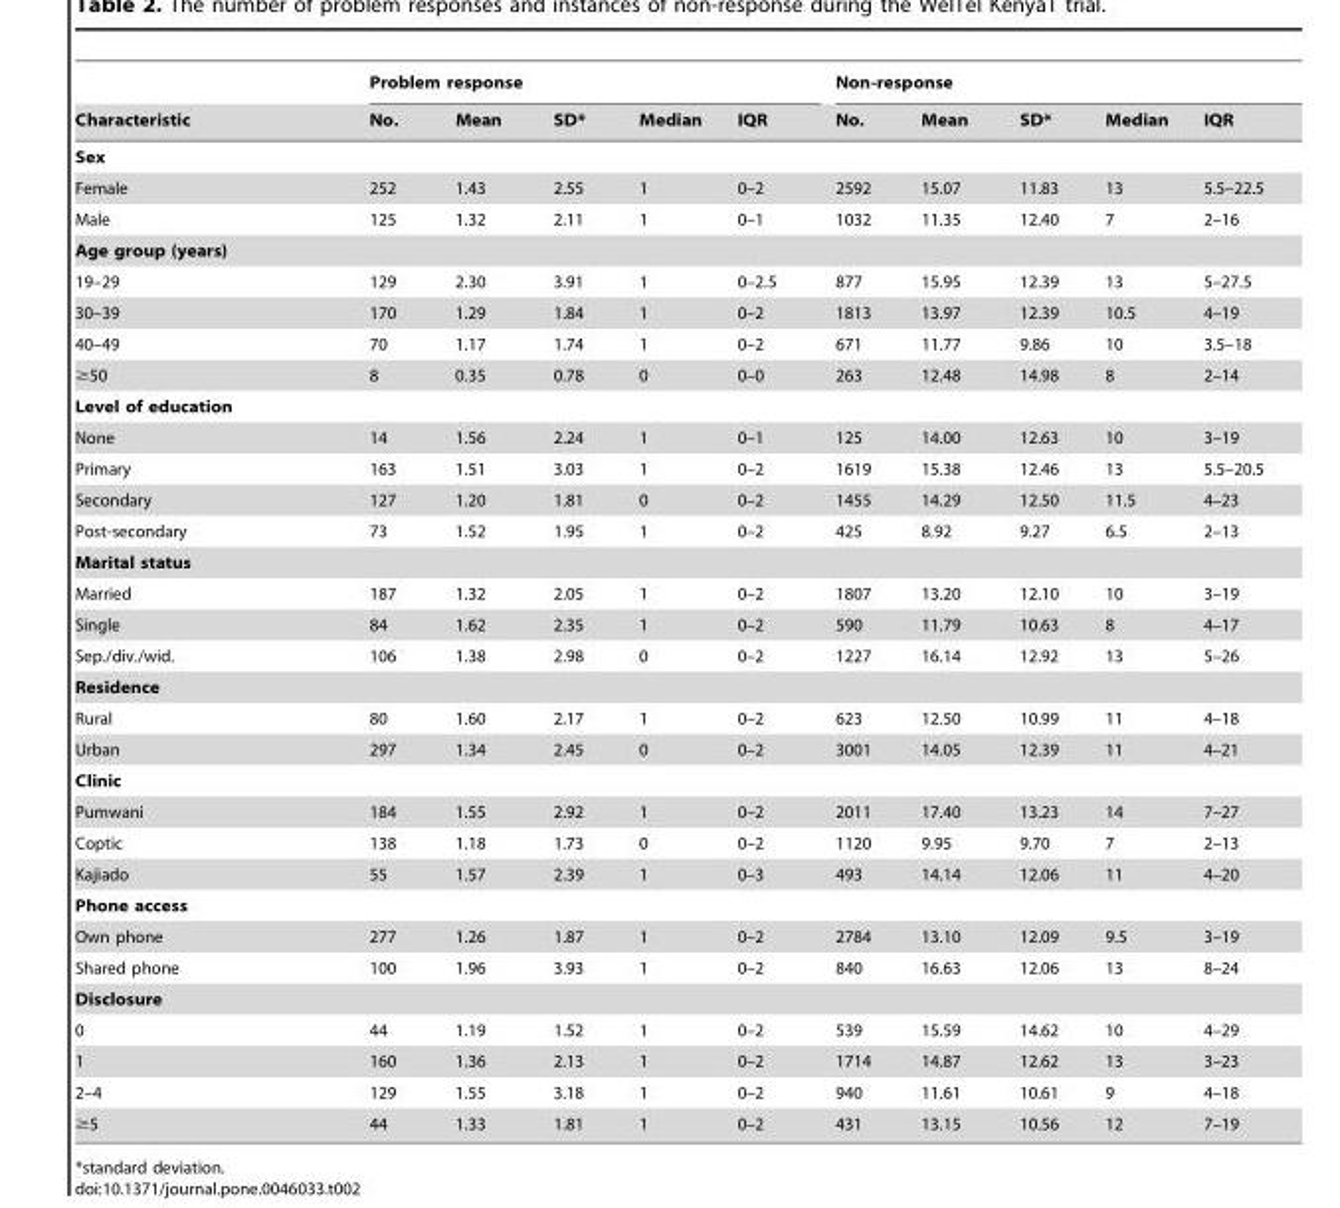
<table><thead><tr><td rowspan="2">Characteristic</td><td colspan="5">Problem response</td><td colspan="5">Non-response</td></tr><tr><td>No.</td><td>Mean</td><td>SD*</td><td>Median</td><td>IQR</td><td>No.</td><td>Mean</td><td>SD*</td><td>Median</td><td>IQR</td></tr></thead><tbody><tr><td colspan="11">Sex</td></tr><tr><td>Female</td><td>252</td><td>1.43</td><td>2.55</td><td>1</td><td>0–2</td><td>2592</td><td>15.07</td><td>11.83</td><td>13</td><td>5.5–22.5</td></tr><tr><td>Male</td><td>125</td><td>1.32</td><td>2.11</td><td>1</td><td>0–1</td><td>1032</td><td>11.35</td><td>12.40</td><td>7</td><td>2–16</td></tr><tr><td colspan="11">Age group (years)</td></tr><tr><td>19–29</td><td>129</td><td>2.30</td><td>3.91</td><td>1</td><td>0–2.5</td><td>877</td><td>15.95</td><td>12.39</td><td>13</td><td>5–27.5</td></tr><tr><td>30–39</td><td>170</td><td>1.29</td><td>1.84</td><td>1</td><td>0–2</td><td>1813</td><td>13.97</td><td>12.39</td><td>10.5</td><td>4–19</td></tr><tr><td>40–49</td><td>70</td><td>1.17</td><td>1.74</td><td>1</td><td>0–2</td><td>671</td><td>11.77</td><td>9.86</td><td>10</td><td>3.5–18</td></tr><tr><td>≥50</td><td>8</td><td>0.35</td><td>0.78</td><td>0</td><td>0–0</td><td>263</td><td>12.48</td><td>14.98</td><td>8</td><td>2–14</td></tr><tr><td colspan="11">Level of education</td></tr><tr><td>None</td><td>14</td><td>1.56</td><td>2.24</td><td>1</td><td>0–1</td><td>125</td><td>14.00</td><td>12.63</td><td>10</td><td>3–19</td></tr><tr><td>Primary</td><td>163</td><td>1.51</td><td>3.03</td><td>1</td><td>0–2</td><td>1619</td><td>15.38</td><td>12.46</td><td>13</td><td>5.5–20.5</td></tr><tr><td>Secondary</td><td>127</td><td>1.20</td><td>1.81</td><td>0</td><td>0–2</td><td>1455</td><td>14.29</td><td>12.50</td><td>11.5</td><td>4–23</td></tr><tr><td>Post-secondary</td><td>73</td><td>1.52</td><td>1.95</td><td>1</td><td>0–2</td><td>425</td><td>8.92</td><td>9.27</td><td>6.5</td><td>2–13</td></tr><tr><td colspan="11">Marital status</td></tr><tr><td>Married</td><td>187</td><td>1.32</td><td>2.05</td><td>1</td><td>0–2</td><td>1807</td><td>13.20</td><td>12.10</td><td>10</td><td>3–19</td></tr><tr><td>Single</td><td>84</td><td>1.62</td><td>2.35</td><td>1</td><td>0–2</td><td>590</td><td>11.79</td><td>10.63</td><td>8</td><td>4–17</td></tr><tr><td>Sep./div./wid.</td><td>106</td><td>1.38</td><td>2.98</td><td>0</td><td>0–2</td><td>1227</td><td>16.14</td><td>12.92</td><td>13</td><td>5–26</td></tr><tr><td colspan="11">Residence</td></tr><tr><td>Rural</td><td>80</td><td>1.60</td><td>2.17</td><td>1</td><td>0–2</td><td>623</td><td>12.50</td><td>10.99</td><td>11</td><td>4–18</td></tr><tr><td>Urban</td><td>297</td><td>1.34</td><td>2.45</td><td>0</td><td>0–2</td><td>3001</td><td>14.05</td><td>12.39</td><td>11</td><td>4–21</td></tr><tr><td colspan="11">Clinic</td></tr><tr><td>Pumwani</td><td>184</td><td>1.55</td><td>2.92</td><td>1</td><td>0–2</td><td>2011</td><td>17.40</td><td>13.23</td><td>14</td><td>7–27</td></tr><tr><td>Coptic</td><td>138</td><td>1.18</td><td>1.73</td><td>0</td><td>0–2</td><td>1120</td><td>9.95</td><td>9.70</td><td>7</td><td>2–13</td></tr><tr><td>Kajiado</td><td>55</td><td>1.57</td><td>2.39</td><td>1</td><td>0–3</td><td>493</td><td>14.14</td><td>12.06</td><td>11</td><td>4–20</td></tr><tr><td colspan="11">Phone access</td></tr><tr><td>Own phone</td><td>277</td><td>1.26</td><td>1.87</td><td>1</td><td>0–2</td><td>2784</td><td>13.10</td><td>12.09</td><td>9.5</td><td>3–19</td></tr><tr><td>Shared phone</td><td>100</td><td>1.96</td><td>3.93</td><td>1</td><td>0–2</td><td>840</td><td>16.63</td><td>12.06</td><td>13</td><td>8–24</td></tr><tr><td colspan="11">Disclosure</td></tr><tr><td>0</td><td>44</td><td>1.19</td><td>1.52</td><td>1</td><td>0–2</td><td>539</td><td>15.59</td><td>14.62</td><td>10</td><td>4–29</td></tr><tr><td>1</td><td>160</td><td>1.36</td><td>2.13</td><td>1</td><td>0–2</td><td>1714</td><td>14.87</td><td>12.62</td><td>13</td><td>3–23</td></tr><tr><td>2–4</td><td>129</td><td>1.55</td><td>3.18</td><td>1</td><td>0–2</td><td>940</td><td>11.61</td><td>10.61</td><td>9</td><td>4–18</td></tr><tr><td>≥5</td><td>44</td><td>1.33</td><td>1.81</td><td>1</td><td>0–2</td><td>431</td><td>13.15</td><td>10.56</td><td>12</td><td>7–19</td></tr></tbody></table>